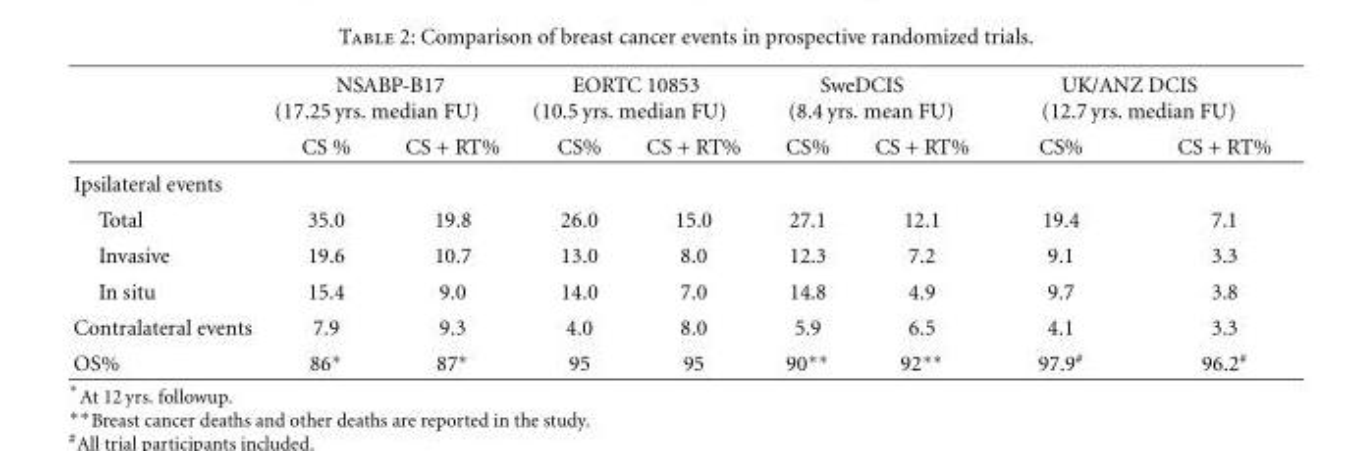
<table><thead><tr><td rowspan="2"></td><td colspan="2">NSABP-B17 (17.25 yrs. median FU)</td><td colspan="2">EORTC 10853 (10.5 yrs. median FU)</td><td colspan="2">SweDCIS (8.4 yrs. mean FU)</td><td colspan="2">UK/ANZ DCIS (12.7 yrs. median FU)</td></tr><tr><td>CS %</td><td>CS + RT%</td><td>CS%</td><td>CS + RT%</td><td>CS%</td><td>CS + RT%</td><td>CS%</td><td>CS + RT%</td></tr></thead><tbody><tr><td colspan="9">Ipsilateral events</td></tr><tr><td>Total</td><td>35.0</td><td>19.8</td><td>26.0</td><td>15.0</td><td>27.1</td><td>12.1</td><td>19.4</td><td>7.1</td></tr><tr><td>Invasive</td><td>19.6</td><td>10.7</td><td>13.0</td><td>8.0</td><td>12.3</td><td>7.2</td><td>9.1</td><td>3.3</td></tr><tr><td>In situ</td><td>15.4</td><td>9.0</td><td>14.0</td><td>7.0</td><td>14.8</td><td>4.9</td><td>9.7</td><td>3.8</td></tr><tr><td>Contralateral events</td><td>7.9</td><td>9.3</td><td>4.0</td><td>8.0</td><td>5.9</td><td>6.5</td><td>4.1</td><td>3.3</td></tr><tr><td>OS%</td><td>86∗</td><td>87∗</td><td>95</td><td>95</td><td>90∗∗</td><td>92∗∗</td><td>97.9<sup>#</sup></td><td>96.2<sup>#</sup></td></tr></tbody></table>